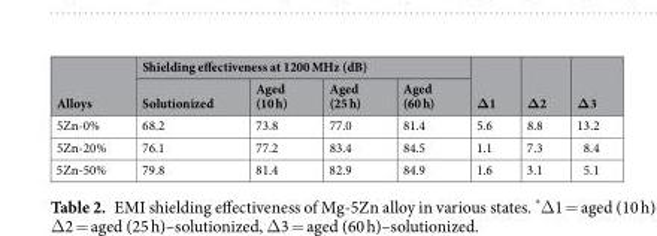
<table><thead><tr><td rowspan="2">Alloys</td><td colspan="4">Shielding effectiveness at 1200 MHz (dB)</td><td rowspan="2">Δ1</td><td rowspan="2">Δ2</td><td rowspan="2">Δ3</td></tr><tr><td>Solutionized</td><td>Aged (10 h)</td><td>Aged (25 h)</td><td>Aged (60 h)</td></tr></thead><tbody><tr><td>5Zn-0%</td><td>68.2</td><td>73.8</td><td>77.0</td><td>81.4</td><td>5.6</td><td>8.8</td><td>13.2</td></tr><tr><td>5Zn-20%</td><td>76.1</td><td>77.2</td><td>83.4</td><td>84.5</td><td>1.1</td><td>7.3</td><td>8.4</td></tr><tr><td>5Zn-50%</td><td>79.8</td><td>81.4</td><td>82.9</td><td>84.9</td><td>1.6</td><td>3.1</td><td>5.1</td></tr></tbody></table>